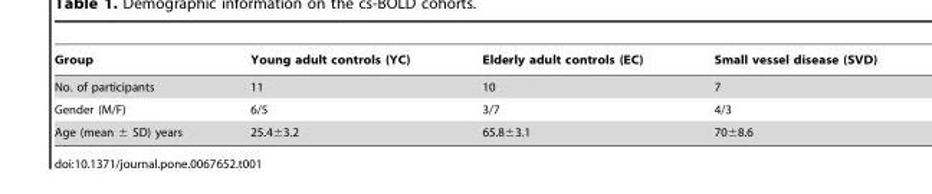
<table><thead><tr><td>Group</td><td>Young adult controls (YC)</td><td>Elderly adult controls (EC)</td><td>Small vessel disease (SVD)</td></tr></thead><tbody><tr><td>No. of participants</td><td>11</td><td>10</td><td>7</td></tr><tr><td>Gender (M/F)</td><td>6/5</td><td>3/7</td><td>4/3</td></tr><tr><td>Age (mean ± SD) years</td><td>25.4±3.2</td><td>65.8±3.1</td><td>70±8.6</td></tr></tbody></table>